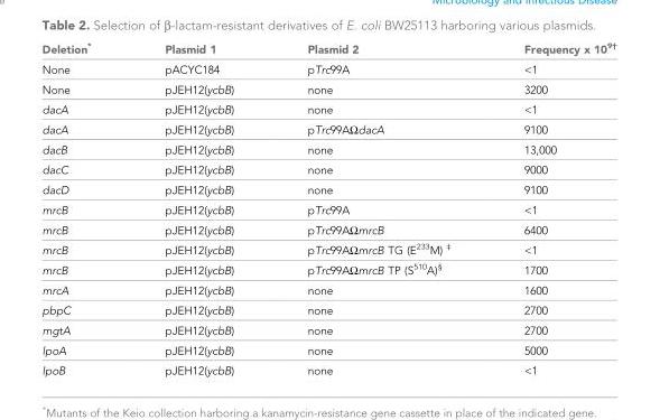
<table><thead><tr><td>Deletion*</td><td>Plasmid 1</td><td>Plasmid 2</td><td>Frequency x 10<sup>9†</sup></td></tr></thead><tbody><tr><td>None</td><td>pACYC184</td><td>pTrc99A</td><td>&lt;1</td></tr><tr><td>None</td><td>pJEH12(ycbB)</td><td>none</td><td>3200</td></tr><tr><td>dacA</td><td>pJEH12(ycbB)</td><td>none</td><td>&lt;1</td></tr><tr><td>dacA</td><td>pJEH12(ycbB)</td><td>pTrc99AΩdacA</td><td>9100</td></tr><tr><td>dacB</td><td>pJEH12(ycbB)</td><td>none</td><td>13,000</td></tr><tr><td>dacC</td><td>pJEH12(ycbB)</td><td>none</td><td>9000</td></tr><tr><td>dacD</td><td>pJEH12(ycbB)</td><td>none</td><td>9100</td></tr><tr><td>mrcB</td><td>pJEH12(ycbB)</td><td>pTrc99A</td><td>&lt;1</td></tr><tr><td>mrcB</td><td>pJEH12(ycbB)</td><td>pTrc99AΩmrcB</td><td>6400</td></tr><tr><td>mrcB</td><td>pJEH12(ycbB)</td><td>pTrc99AΩmrcB TG (E<sup>233</sup>M) <sup>‡</sup></td><td>&lt;1</td></tr><tr><td>mrcB</td><td>pJEH12(ycbB)</td><td>pTrc99AΩmrcB TP (S<sup>510</sup>A)<sup>§</sup></td><td>1700</td></tr><tr><td>mrcA</td><td>pJEH12(ycbB)</td><td>none</td><td>1600</td></tr><tr><td>pbpC</td><td>pJEH12(ycbB)</td><td>none</td><td>2700</td></tr><tr><td>mgtA</td><td>pJEH12(ycbB)</td><td>none</td><td>2700</td></tr><tr><td>lpoA</td><td>pJEH12(ycbB)</td><td>none</td><td>5000</td></tr><tr><td>lpoB</td><td>pJEH12(ycbB)</td><td>none</td><td>&lt;1</td></tr></tbody></table>